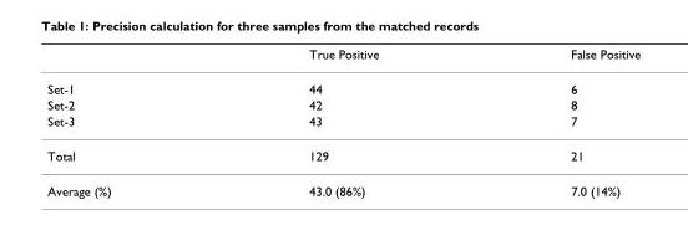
<table><thead><tr><td></td><td>True Positive</td><td>False Positive</td></tr></thead><tbody><tr><td>Set-1</td><td>44</td><td>6</td></tr><tr><td>Set-2</td><td>42</td><td>8</td></tr><tr><td>Set-3</td><td>43</td><td>7</td></tr><tr><td>Total</td><td>129</td><td>21</td></tr><tr><td>Average (%)</td><td>43.0 (86%)</td><td>7.0 (14%)</td></tr></tbody></table>